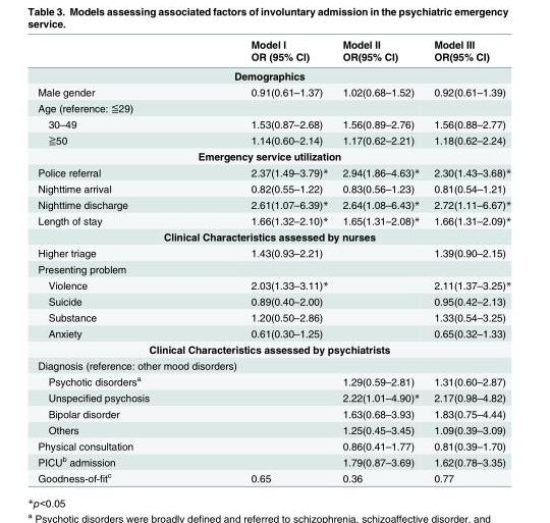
<table><thead><tr><td rowspan="2"></td><td rowspan="2">Model I OR (95% CI)</td><td rowspan="2">Model II OR(95% CI)</td><td rowspan="2">Model III OR(95% CI)</td></tr><tr></tr></thead><tbody><tr><td colspan="4">Demographics</td></tr><tr><td>Male gender</td><td>0.91(0.61–1.37)</td><td>1.02(0.68–1.52)</td><td>0.92(0.61–1.39)</td></tr><tr><td colspan="4">Age (reference: ≦29)</td></tr><tr><td>30–49</td><td>1.53(0.87–2.68)</td><td>1.56(0.89–2.76)</td><td>1.56(0.88–2.77)</td></tr><tr><td>≧50</td><td>1.14(0.60–2.14)</td><td>1.17(0.62–2.21)</td><td>1.18(0.62–2.24)</td></tr><tr><td colspan="4">Emergency service utilization</td></tr><tr><td>Police referral</td><td>2.37(1.49–3.79)*</td><td>2.94(1.86–4.63)*</td><td>2.30(1.43–3.68)*</td></tr><tr><td>Nighttime arrival</td><td>0.82(0.55–1.22)</td><td>0.83(0.56–1.23)</td><td>0.81(0.54–1.21)</td></tr><tr><td>Nighttime discharge</td><td>2.61(1.07–6.39)*</td><td>2.64(1.08–6.43)*</td><td>2.72(1.11–6.67)*</td></tr><tr><td>Length of stay</td><td>1.66(1.32–2.10)*</td><td>1.65(1.31–2.08)*</td><td>1.66(1.31–2.09)*</td></tr><tr><td colspan="4">Clinical Characteristics assessed by nurses</td></tr><tr><td>Higher triage</td><td>1.43(0.93–2.21)</td><td></td><td>1.39(0.90–2.15)</td></tr><tr><td colspan="4">Presenting problem</td></tr><tr><td>Violence</td><td>2.03(1.33–3.11)*</td><td></td><td>2.11(1.37–3.25)*</td></tr><tr><td>Suicide</td><td>0.89(0.40–2.00)</td><td></td><td>0.95(0.42–2.13)</td></tr><tr><td>Substance</td><td>1.20(0.50–2.86)</td><td></td><td>1.33(0.54–3.25)</td></tr><tr><td>Anxiety</td><td>0.61(0.30–1.25)</td><td></td><td>0.65(0.32–1.33)</td></tr><tr><td colspan="4">Clinical Characteristics assessed by psychiatrists</td></tr><tr><td colspan="4">Diagnosis (reference: other mood disorders)</td></tr><tr><td>Psychotic disorders<sup>a</sup></td><td></td><td>1.29(0.59–2.81)</td><td>1.31(0.60–2.87)</td></tr><tr><td>Unspecified psychosis</td><td></td><td>2.22(1.01–4.90)*</td><td>2.17(0.98–4.82)</td></tr><tr><td>Bipolar disorder</td><td></td><td>1.63(0.68–3.93)</td><td>1.83(0.75–4.44)</td></tr><tr><td>Others</td><td></td><td>1.25(0.45–3.45)</td><td>1.09(0.39–3.09)</td></tr><tr><td>Physical consultation</td><td></td><td>0.86(0.41–1.77)</td><td>0.81(0.39–1.70)</td></tr><tr><td>PICU<sup>b</sup> admission</td><td></td><td>1.79(0.87–3.69)</td><td>1.62(0.78–3.35)</td></tr><tr><td>Goodness-of-fit<sup>c</sup></td><td>0.65</td><td>0.36</td><td>0.77</td></tr></tbody></table>